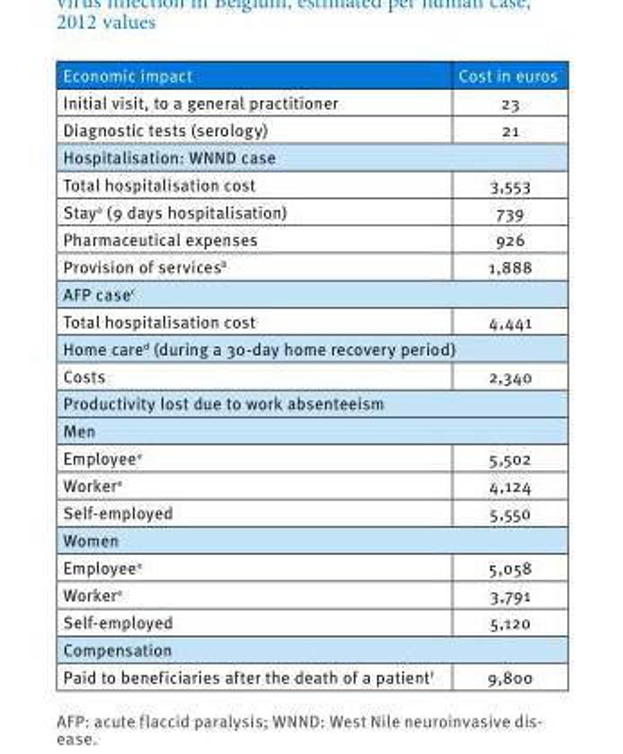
<table><thead><tr><td>Economic impact</td><td>Cost in euros</td></tr></thead><tbody><tr><td>Initial visit, to a general practitioner</td><td>23</td></tr><tr><td>Diagnostic tests (serology)</td><td>21</td></tr><tr><td colspan="2">Hospitalisation: WNND case</td></tr><tr><td>Total hospitalisation cost</td><td>3,553</td></tr><tr><td>Stay<sup>a</sup> (9 days hospitalisation)</td><td>739</td></tr><tr><td>Pharmaceutical expenses</td><td>926</td></tr><tr><td>Provision of services<sup>b</sup></td><td>1,888</td></tr><tr><td colspan="2">AFP case<sup>c</sup></td></tr><tr><td>Total hospitalisation cost</td><td>4,441</td></tr><tr><td colspan="2">Home care<sup>d</sup> (during a 30-day home recovery period)</td></tr><tr><td>Costs</td><td>2,340</td></tr><tr><td colspan="2">Productivity lost due to work absenteeism</td></tr><tr><td colspan="2">Men</td></tr><tr><td>Employee<sup>e</sup></td><td>5,502</td></tr><tr><td>Worker<sup>e</sup></td><td>4,124</td></tr><tr><td>Self-employed</td><td>5,550</td></tr><tr><td colspan="2">Women</td></tr><tr><td>Employee<sup>e</sup></td><td>5,058</td></tr><tr><td>Worker<sup>e</sup></td><td>3,791</td></tr><tr><td>Self-employed</td><td>5,120</td></tr><tr><td colspan="2">Compensation</td></tr><tr><td>Paid to beneficiaries after the death of a patient<sup>f</sup></td><td>9,800</td></tr></tbody></table>